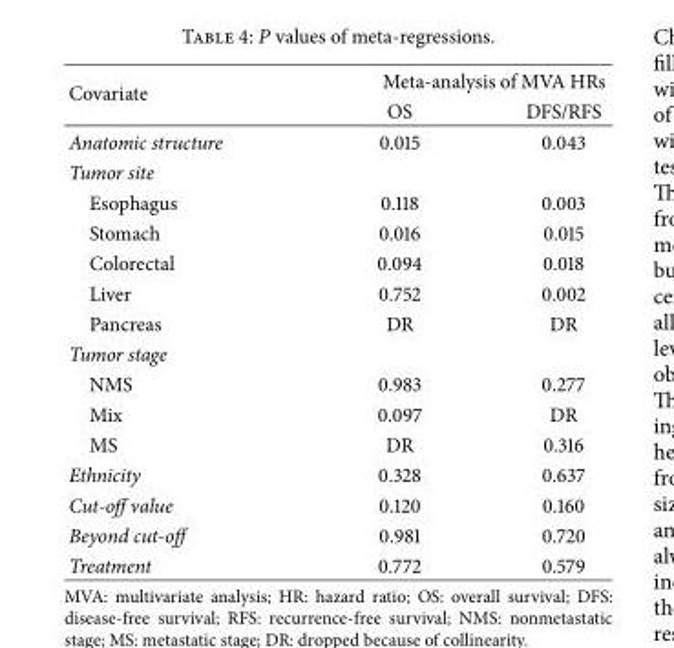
<table><thead><tr><td rowspan="2">Covariate</td><td colspan="2">Meta-analysis of MVA HRs</td></tr><tr><td>OS</td><td>DFS/RFS</td></tr></thead><tbody><tr><td>Anatomic structure</td><td>0.015</td><td>0.043</td></tr><tr><td colspan="3">Tumor site</td></tr><tr><td>Esophagus</td><td>0.118</td><td>0.003</td></tr><tr><td>Stomach</td><td>0.016</td><td>0.015</td></tr><tr><td>Colorectal</td><td>0.094</td><td>0.018</td></tr><tr><td>Liver</td><td>0.752</td><td>0.002</td></tr><tr><td>Pancreas</td><td>DR</td><td>DR</td></tr><tr><td colspan="3">Tumor stage</td></tr><tr><td>NMS</td><td>0.983</td><td>0.277</td></tr><tr><td>Mix</td><td>0.097</td><td>DR</td></tr><tr><td>MS</td><td>DR</td><td>0.316</td></tr><tr><td>Ethnicity</td><td>0.328</td><td>0.637</td></tr><tr><td>Cut-off value</td><td>0.120</td><td>0.160</td></tr><tr><td>Beyond cut-off</td><td>0.981</td><td>0.720</td></tr><tr><td>Treatment</td><td>0.772</td><td>0.579</td></tr></tbody></table>